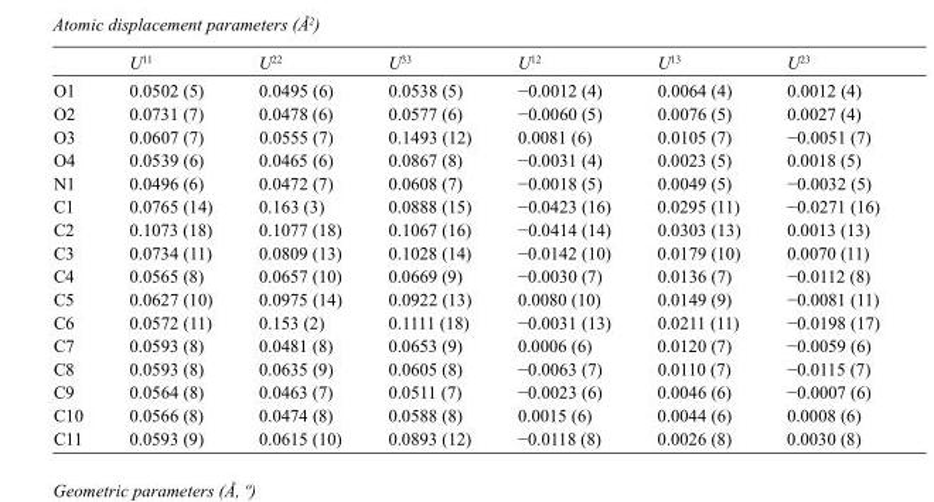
<table><thead><tr><td></td><td>U<sup>11</sup></td><td>U<sup>22</sup></td><td>U<sup>33</sup></td><td>U<sup>12</sup></td><td>U<sup>13</sup></td><td>U<sup>23</sup></td></tr></thead><tbody><tr><td>O1</td><td>0.0502 (5)</td><td>0.0495 (6)</td><td>0.0538 (5)</td><td>−0.0012 (4)</td><td>0.0064 (4)</td><td>0.0012 (4)</td></tr><tr><td>O2</td><td>0.0731 (7)</td><td>0.0478 (6)</td><td>0.0577 (6)</td><td>−0.0060 (5)</td><td>0.0076 (5)</td><td>0.0027 (4)</td></tr><tr><td>O3</td><td>0.0607 (7)</td><td>0.0555 (7)</td><td>0.1493 (12)</td><td>0.0081 (6)</td><td>0.0105 (7)</td><td>−0.0051 (7)</td></tr><tr><td>O4</td><td>0.0539 (6)</td><td>0.0465 (6)</td><td>0.0867 (8)</td><td>−0.0031 (4)</td><td>0.0023 (5)</td><td>0.0018 (5)</td></tr><tr><td>N1</td><td>0.0496 (6)</td><td>0.0472 (7)</td><td>0.0608 (7)</td><td>−0.0018 (5)</td><td>0.0049 (5)</td><td>−0.0032 (5)</td></tr><tr><td>C1</td><td>0.0765 (14)</td><td>0.163 (3)</td><td>0.0888 (15)</td><td>−0.0423 (16)</td><td>0.0295 (11)</td><td>−0.0271 (16)</td></tr><tr><td>C2</td><td>0.1073 (18)</td><td>0.1077 (18)</td><td>0.1067 (16)</td><td>−0.0414 (14)</td><td>0.0303 (13)</td><td>0.0013 (13)</td></tr><tr><td>C3</td><td>0.0734 (11)</td><td>0.0809 (13)</td><td>0.1028 (14)</td><td>−0.0142 (10)</td><td>0.0179 (10)</td><td>0.0070 (11)</td></tr><tr><td>C4</td><td>0.0565 (8)</td><td>0.0657 (10)</td><td>0.0669 (9)</td><td>−0.0030 (7)</td><td>0.0136 (7)</td><td>−0.0112 (8)</td></tr><tr><td>C5</td><td>0.0627 (10)</td><td>0.0975 (14)</td><td>0.0922 (13)</td><td>0.0080 (10)</td><td>0.0149 (9)</td><td>−0.0081 (11)</td></tr><tr><td>C6</td><td>0.0572 (11)</td><td>0.153 (2)</td><td>0.1111 (18)</td><td>−0.0031 (13)</td><td>0.0211 (11)</td><td>−0.0198 (17)</td></tr><tr><td>C7</td><td>0.0593 (8)</td><td>0.0481 (8)</td><td>0.0653 (9)</td><td>0.0006 (6)</td><td>0.0120 (7)</td><td>−0.0059 (6)</td></tr><tr><td>C8</td><td>0.0593 (8)</td><td>0.0635 (9)</td><td>0.0605 (8)</td><td>−0.0063 (7)</td><td>0.0110 (7)</td><td>−0.0115 (7)</td></tr><tr><td>C9</td><td>0.0564 (8)</td><td>0.0463 (7)</td><td>0.0511 (7)</td><td>−0.0023 (6)</td><td>0.0046 (6)</td><td>−0.0007 (6)</td></tr><tr><td>C10</td><td>0.0566 (8)</td><td>0.0474 (8)</td><td>0.0588 (8)</td><td>0.0015 (6)</td><td>0.0044 (6)</td><td>0.0008 (6)</td></tr><tr><td>C11</td><td>0.0593 (9)</td><td>0.0615 (10)</td><td>0.0893 (12)</td><td>−0.0118 (8)</td><td>0.0026 (8)</td><td>0.0030 (8)</td></tr></tbody></table>